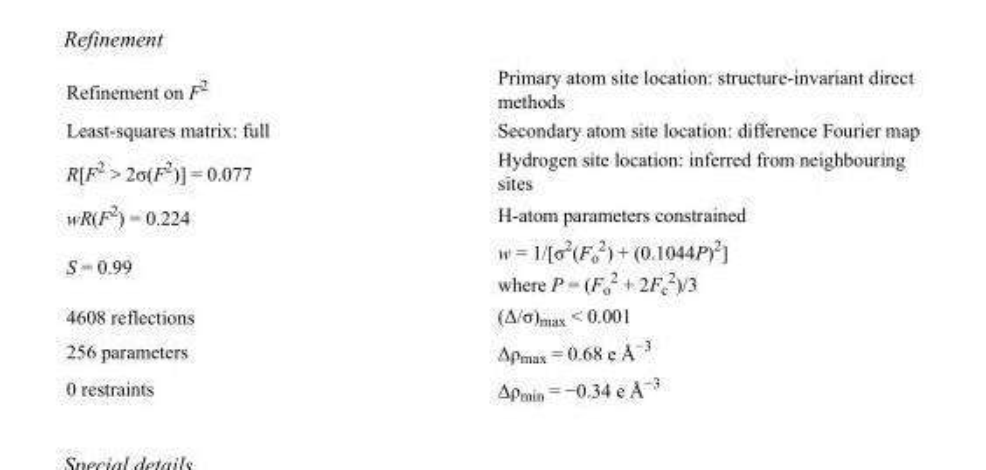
<table><tbody><tr><td>Refinement on F<sup>2</sup></td><td>Primary atom site location: structure-invariant direct methods</td></tr><tr><td>Least-squares matrix: full</td><td>Secondary atom site location: difference Fourier map</td></tr><tr><td>R[F<sup>2</sup> &gt; 2σ(F<sup>2</sup>)] = 0.077</td><td>Hydrogen site location: inferred from neighbouring sites</td></tr><tr><td>wR(F<sup>2</sup>) = 0.224</td><td>H-atom parameters constrained</td></tr><tr><td>S = 0.99</td><td>w = 1/[σ<sup>2</sup>(F<sub>o</sub> <sup>2</sup>) + (0.1044P)<sup>2</sup>] where P = (F<sub>o</sub> <sup>2</sup> + 2F<sub>c</sub> <sup>2</sup>)/3</td></tr><tr><td>4608 reflections</td><td>(Δ/σ)<sub>max</sub> &lt; 0.001</td></tr><tr><td>256 parameters</td><td>Δρ<sub>max</sub> = 0.68 e Å<sup>−3</sup></td></tr><tr><td>0 restraints</td><td>Δρmin = −0.34 e Å−3</td></tr></tbody></table>